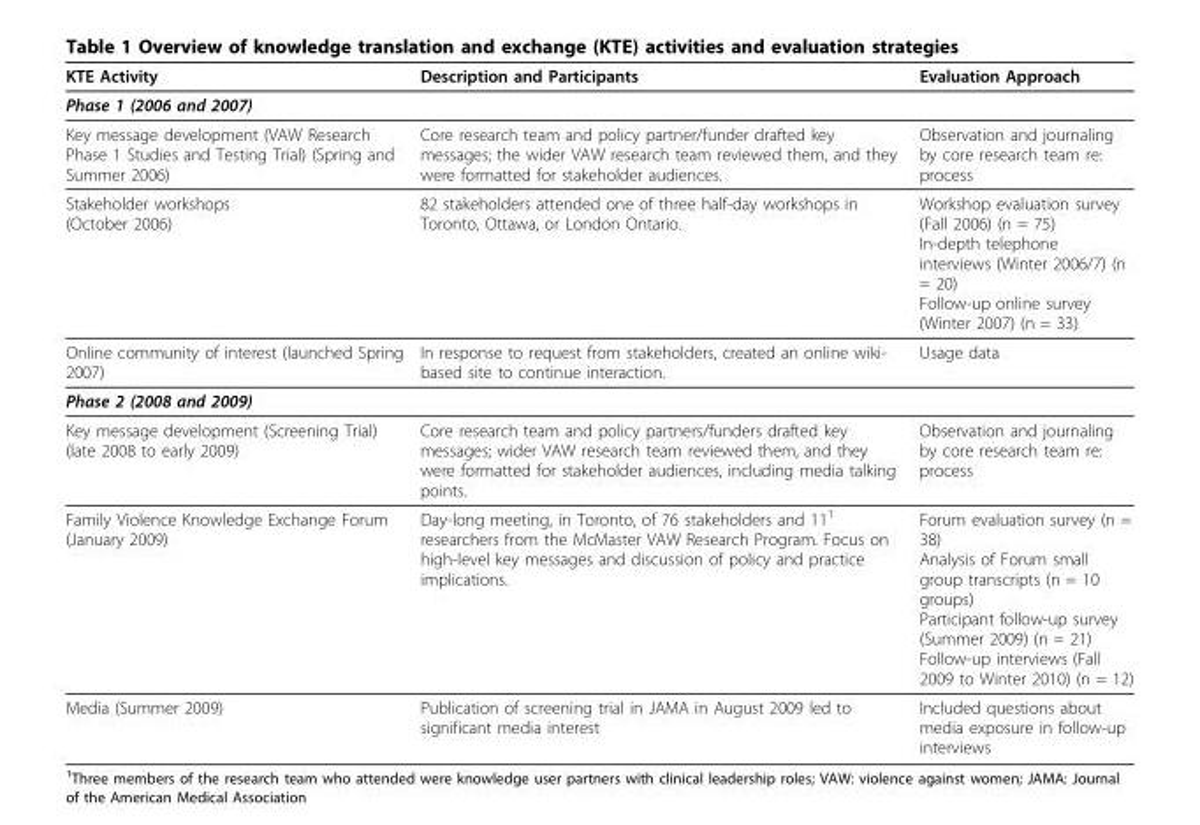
<table><thead><tr><td>KTE Activity</td><td>Description and Participants</td><td>Evaluation Approach</td></tr></thead><tbody><tr><td colspan="3">Phase 1 (2006 and 2007)</td></tr><tr><td>Key message development (VAW Research Phase 1 Studies and Testing Trial) (Spring and Summer 2006)</td><td>Core research team and policy partner/funder drafted key messages; the wider VAW research team reviewed them, and they were formatted for stakeholder audiences.</td><td>Observation and journaling by core research team re: process</td></tr><tr><td>Stakeholder workshops (October 2006)</td><td>82 stakeholders attended one of three half-day workshops in Toronto, Ottawa, or London Ontario.</td><td>Workshop evaluation survey (Fall 2006) (n = 75) In-depth telephone interviews (Winter 2006/7) (n = 20) Follow-up online survey (Winter 2007) (n = 33)</td></tr><tr><td>Online community of interest (launched Spring 2007)</td><td>In response to request from stakeholders, created an online wiki- based site to continue interaction.</td><td>Usage data</td></tr><tr><td colspan="3">Phase 2 (2008 and 2009)</td></tr><tr><td>Key message development (Screening Trial) (late 2008 to early 2009)</td><td>Core research team and policy partners/funders drafted key messages; wider VAW research team reviewed them, and they were formatted for stakeholder audiences, including media talking points.</td><td>Observation and journaling by core research team re: process</td></tr><tr><td>Family Violence Knowledge Exchange Forum (January 2009)</td><td>Day-long meeting, in Toronto, of 76 stakeholders and 11<sup>1</sup> researchers from the McMaster VAW Research Program. Focus on high-level key messages and discussion of policy and practice implications.</td><td>Forum evaluation survey (n = 38) Analysis of Forum small group transcripts (n = 10 groups) Participant follow-up survey (Summer 2009) (n = 21) Follow-up interviews (Fall 2009 to Winter 2010) (n = 12)</td></tr><tr><td>Media (Summer 2009)</td><td>Publication of screening trial in JAMA in August 2009 led to significant media interest</td><td>Included questions about media exposure in follow-up interviews</td></tr></tbody></table>